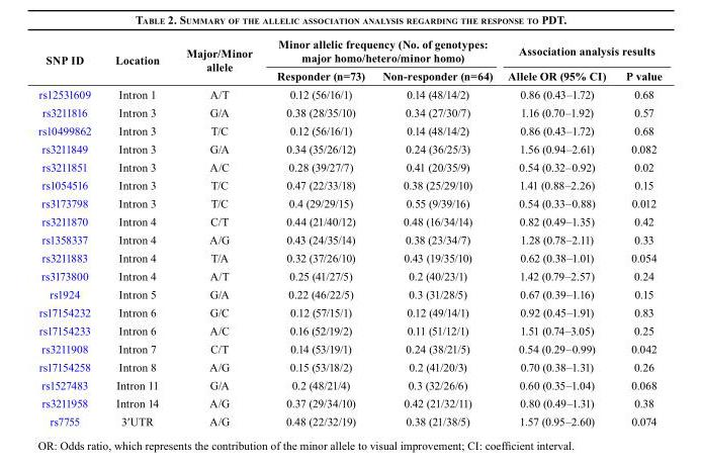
<table><thead><tr><td rowspan="2">SNP ID</td><td rowspan="2">Location</td><td rowspan="2">Major/Minor allele</td><td colspan="2">Minor allelic frequency (No. of genotypes: major homo/hetero/minor homo)</td><td colspan="2">Association analysis results</td></tr><tr><td>Responder (n=73)</td><td>Non-responder (n=64)</td><td>Allele OR (95% CI)</td><td>P value</td></tr></thead><tbody><tr><td>rs12531609</td><td>Intron 1</td><td>A/T</td><td>0.12 (56/16/1)</td><td>0.14 (48/14/2)</td><td>0.86 (0.43–1.72)</td><td>0.68</td></tr><tr><td>rs3211816</td><td>Intron 3</td><td>G/A</td><td>0.38 (28/35/10)</td><td>0.34 (27/30/7)</td><td>1.16 (0.70–1.92)</td><td>0.57</td></tr><tr><td>rs10499862</td><td>Intron 3</td><td>T/C</td><td>0.12 (56/16/1)</td><td>0.14 (48/14/2)</td><td>0.86 (0.43–1.72)</td><td>0.68</td></tr><tr><td>rs3211849</td><td>Intron 3</td><td>G/A</td><td>0.34 (35/26/12)</td><td>0.24 (36/25/3)</td><td>1.56 (0.94–2.61)</td><td>0.082</td></tr><tr><td>rs3211851</td><td>Intron 3</td><td>A/C</td><td>0.28 (39/27/7)</td><td>0.41 (20/35/9)</td><td>0.54 (0.32–0.92)</td><td>0.02</td></tr><tr><td>rs1054516</td><td>Intron 3</td><td>T/C</td><td>0.47 (22/33/18)</td><td>0.38 (25/29/10)</td><td>1.41 (0.88–2.26)</td><td>0.15</td></tr><tr><td>rs3173798</td><td>Intron 3</td><td>T/C</td><td>0.4 (29/29/15)</td><td>0.55 (9/39/16)</td><td>0.54 (0.33–0.88)</td><td>0.012</td></tr><tr><td>rs3211870</td><td>Intron 4</td><td>C/T</td><td>0.44 (21/40/12)</td><td>0.48 (16/34/14)</td><td>0.82 (0.49–1.35)</td><td>0.42</td></tr><tr><td>rs1358337</td><td>Intron 4</td><td>A/G</td><td>0.43 (24/35/14)</td><td>0.38 (23/34/7)</td><td>1.28 (0.78–2.11)</td><td>0.33</td></tr><tr><td>rs3211883</td><td>Intron 4</td><td>T/A</td><td>0.32 (37/26/10)</td><td>0.43 (19/35/10)</td><td>0.62 (0.38–1.01)</td><td>0.054</td></tr><tr><td>rs3173800</td><td>Intron 4</td><td>A/T</td><td>0.25 (41/27/5)</td><td>0.2 (40/23/1)</td><td>1.42 (0.79–2.57)</td><td>0.24</td></tr><tr><td>rs1924</td><td>Intron 5</td><td>G/A</td><td>0.22 (46/22/5)</td><td>0.3 (31/28/5)</td><td>0.67 (0.39–1.16)</td><td>0.15</td></tr><tr><td>rs17154232</td><td>Intron 6</td><td>G/C</td><td>0.12 (57/15/1)</td><td>0.12 (49/14/1)</td><td>0.92 (0.45–1.91)</td><td>0.83</td></tr><tr><td>rs17154233</td><td>Intron 6</td><td>A/C</td><td>0.16 (52/19/2)</td><td>0.11 (51/12/1)</td><td>1.51 (0.74–3.05)</td><td>0.25</td></tr><tr><td>rs3211908</td><td>Intron 7</td><td>C/T</td><td>0.14 (53/19/1)</td><td>0.24 (38/21/5)</td><td>0.54 (0.29–0.99)</td><td>0.042</td></tr><tr><td>rs17154258</td><td>Intron 8</td><td>A/G</td><td>0.15 (53/18/2)</td><td>0.2 (41/20/3)</td><td>0.70 (0.38–1.31)</td><td>0.26</td></tr><tr><td>rs1527483</td><td>Intron 11</td><td>G/A</td><td>0.2 (48/21/4)</td><td>0.3 (32/26/6)</td><td>0.60 (0.35–1.04)</td><td>0.068</td></tr><tr><td>rs3211958</td><td>Intron 14</td><td>A/G</td><td>0.37 (29/34/10)</td><td>0.42 (21/32/11)</td><td>0.80 (0.49–1.31)</td><td>0.38</td></tr><tr><td>rs7755</td><td>3′UTR</td><td>A/G</td><td>0.48 (22/32/19)</td><td>0.38 (21/38/5)</td><td>1.57 (0.95–2.60)</td><td>0.074</td></tr></tbody></table>